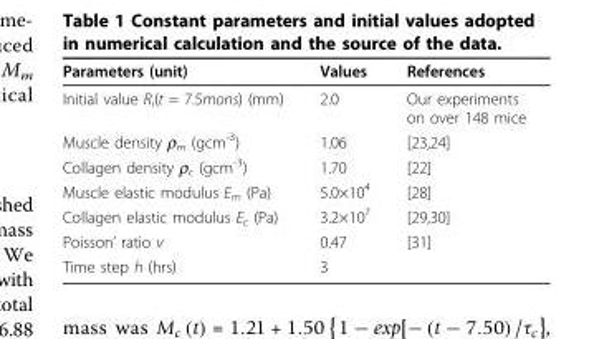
<table><thead><tr><td>Parameters (unit)</td><td>Values</td><td>References</td></tr></thead><tbody><tr><td>Initial value R<sub>i</sub>(t = 7.5mons) (mm)</td><td>2.0</td><td>Our experiments on over 148 mice</td></tr><tr><td>Muscle density ρ<sub>m</sub> (gcm<sup>-3</sup>)</td><td>1.06</td><td>[23,24]</td></tr><tr><td>Collagen density ρ<sub>c</sub> (gcm<sup>-3</sup>)</td><td>1.70</td><td>[22]</td></tr><tr><td>Muscle elastic modulus E<sub>m</sub> (Pa)</td><td>5.0×10<sup>4</sup></td><td>[28]</td></tr><tr><td>Collagen elastic modulus E<sub>c</sub> (Pa)</td><td>3.2×10<sup>7</sup></td><td>[29,30]</td></tr><tr><td>Poisson’ ratio v</td><td>0.47</td><td>[31]</td></tr><tr><td>Time step h (hrs)</td><td>3</td><td></td></tr></tbody></table>